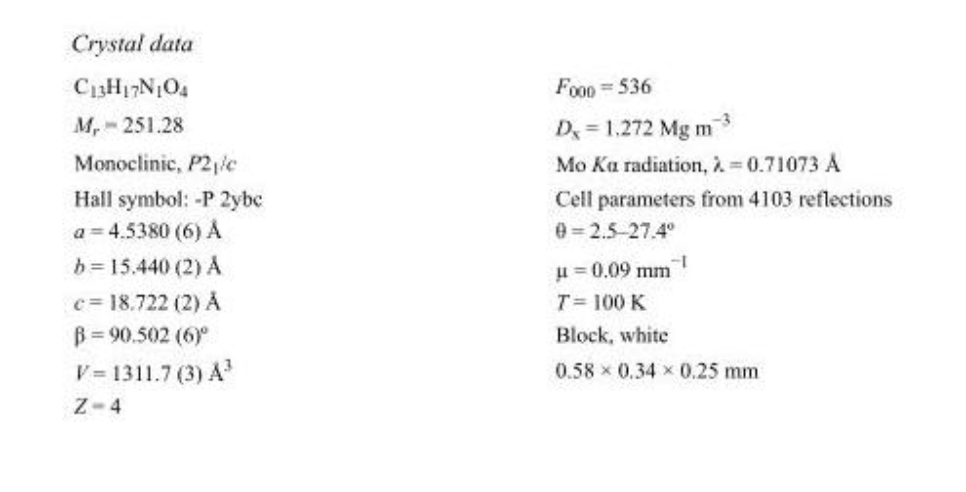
<table><tbody><tr><td>C13H17N1O4</td><td>F000 = 536</td></tr><tr><td>M<sub>r</sub> = 251.28</td><td>D<sub>x</sub> = 1.272 Mg m<sup>−3</sup></td></tr><tr><td>Monoclinic, P2<sub>1</sub>/c</td><td>Mo Kα radiation, λ = 0.71073 Å</td></tr><tr><td>Hall symbol: -P 2ybc</td><td>Cell parameters from 4103 reflections</td></tr><tr><td>a = 4.5380 (6) Å</td><td>θ = 2.5–27.4º</td></tr><tr><td>b = 15.440 (2) Å</td><td>µ = 0.09 mm<sup>−1</sup></td></tr><tr><td>c = 18.722 (2) Å</td><td>T = 100 K</td></tr><tr><td>β = 90.502 (6)º</td><td>Block, white</td></tr><tr><td>V = 1311.7 (3) Å<sup>3</sup></td><td>0.58 × 0.34 × 0.25 mm</td></tr><tr><td>Z = 4</td><td></td></tr></tbody></table>